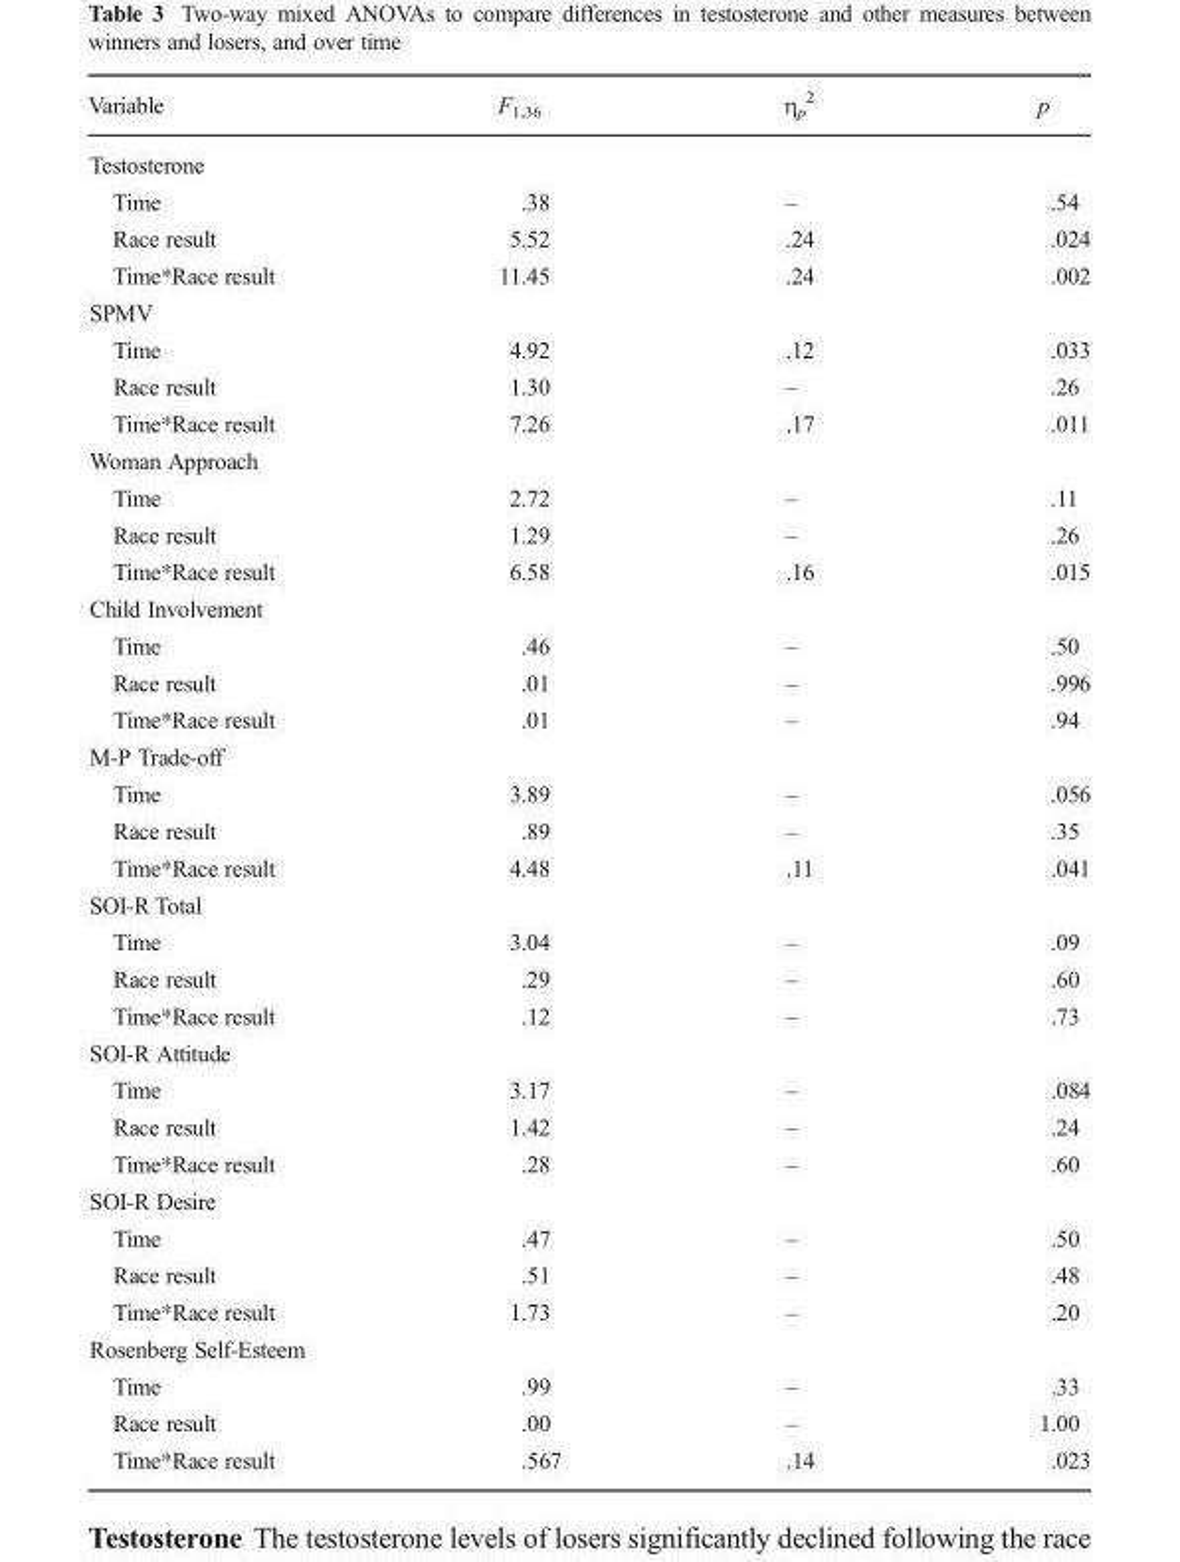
<table><thead><tr><td>Variable</td><td>F<sub>1,36</sub></td><td>η<sub>p</sub> <sup>2</sup></td><td>p</td></tr></thead><tbody><tr><td colspan="4">Testosterone</td></tr><tr><td>Time</td><td>.38</td><td>–</td><td>.54</td></tr><tr><td>Race result</td><td>5.52</td><td>.24</td><td>.024</td></tr><tr><td>Time*Race result</td><td>11.45</td><td>.24</td><td>.002</td></tr><tr><td colspan="4">SPMV</td></tr><tr><td>Time</td><td>4.92</td><td>.12</td><td>.033</td></tr><tr><td>Race result</td><td>1.30</td><td>–</td><td>.26</td></tr><tr><td>Time*Race result</td><td>7.26</td><td>.17</td><td>.011</td></tr><tr><td colspan="4">Woman Approach</td></tr><tr><td>Time</td><td>2.72</td><td>–</td><td>.11</td></tr><tr><td>Race result</td><td>1.29</td><td>–</td><td>.26</td></tr><tr><td>Time*Race result</td><td>6.58</td><td>.16</td><td>.015</td></tr><tr><td colspan="4">Child Involvement</td></tr><tr><td>Time</td><td>.46</td><td>–</td><td>.50</td></tr><tr><td>Race result</td><td>.01</td><td>–</td><td>.996</td></tr><tr><td>Time*Race result</td><td>.01</td><td>–</td><td>.94</td></tr><tr><td colspan="4">M-P Trade-off</td></tr><tr><td>Time</td><td>3.89</td><td>–</td><td>.056</td></tr><tr><td>Race result</td><td>.89</td><td>–</td><td>.35</td></tr><tr><td>Time*Race result</td><td>4.48</td><td>.11</td><td>.041</td></tr><tr><td colspan="4">SOI-R Total</td></tr><tr><td>Time</td><td>3.04</td><td>–</td><td>.09</td></tr><tr><td>Race result</td><td>.29</td><td>–</td><td>.60</td></tr><tr><td>Time*Race result</td><td>.12</td><td>–</td><td>.73</td></tr><tr><td colspan="4">SOI-R Attitude</td></tr><tr><td>Time</td><td>3.17</td><td>–</td><td>.084</td></tr><tr><td>Race result</td><td>1.42</td><td>–</td><td>.24</td></tr><tr><td>Time*Race result</td><td>.28</td><td>–</td><td>.60</td></tr><tr><td colspan="4">SOI-R Desire</td></tr><tr><td>Time</td><td>.47</td><td>–</td><td>.50</td></tr><tr><td>Race result</td><td>.51</td><td>–</td><td>.48</td></tr><tr><td>Time*Race result</td><td>1.73</td><td>–</td><td>.20</td></tr><tr><td colspan="4">Rosenberg Self-Esteem</td></tr><tr><td>Time</td><td>.99</td><td>–</td><td>.33</td></tr><tr><td>Race result</td><td>.00</td><td>–</td><td>1.00</td></tr><tr><td>Time*Race result</td><td>.567</td><td>.14</td><td>.023</td></tr></tbody></table>